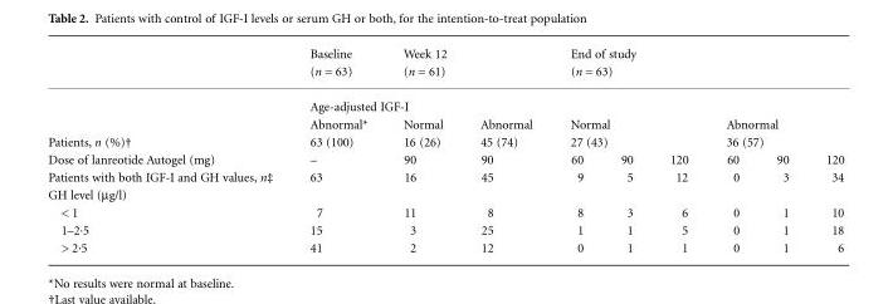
<table><thead><tr><td></td><td>Baseline (n = 63)</td><td colspan="2">Week 12 (n = 61)</td><td colspan="6">End of study (n = 63)</td></tr></thead><tbody><tr><td></td><td colspan="9">Age-adjusted IGF-I</td></tr><tr><td></td><td>Abnormal*</td><td>Normal</td><td>Abnormal</td><td colspan="3">Normal</td><td colspan="3">Abnormal</td></tr><tr><td>Patients, n (%)†</td><td>63 (100)</td><td>16 (26)</td><td>45 (74)</td><td colspan="3">27 (43)</td><td colspan="3">36 (57)</td></tr><tr><td>Dose of lanreotide Autogel (mg)</td><td>–</td><td>90</td><td>90</td><td>60</td><td>90</td><td>120</td><td>60</td><td>90</td><td>120</td></tr><tr><td>Patients with both IGF-I and GH values, n‡</td><td>63</td><td>16</td><td>45</td><td>9</td><td>5</td><td>12</td><td>0</td><td>3</td><td>34</td></tr><tr><td colspan="10">GH level (μg/l)</td></tr><tr><td>&lt; 1</td><td>7</td><td>11</td><td>8</td><td>8</td><td>3</td><td>6</td><td>0</td><td>1</td><td>10</td></tr><tr><td>1–2·5</td><td>15</td><td>3</td><td>25</td><td>1</td><td>1</td><td>5</td><td>0</td><td>1</td><td>18</td></tr><tr><td>&gt; 2·5</td><td>41</td><td>2</td><td>12</td><td>0</td><td>1</td><td>1</td><td>0</td><td>1</td><td>6</td></tr></tbody></table>